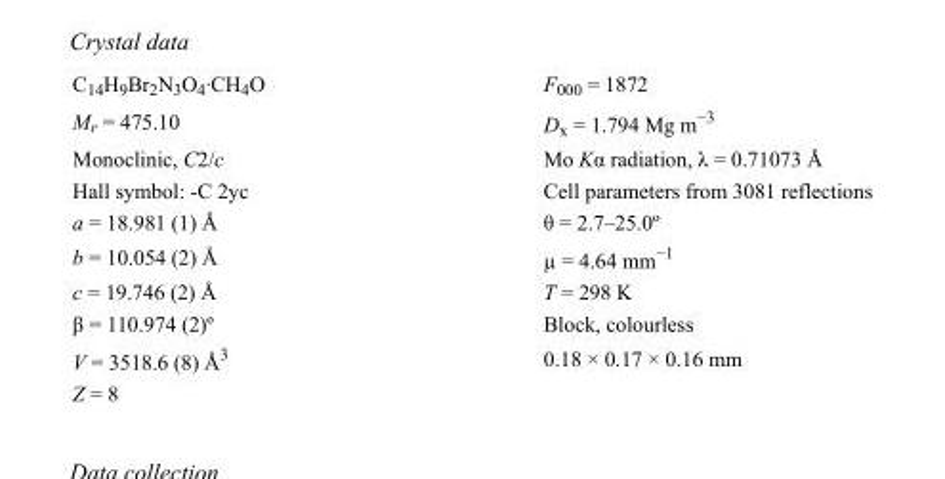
<table><tbody><tr><td>C<sub>14</sub>H<sub>9</sub>Br<sub>2</sub>N<sub>3</sub>O<sub>4</sub>·CH<sub>4</sub>O</td><td>F000 = 1872</td></tr><tr><td>M<sub>r</sub> = 475.10</td><td>D<sub>x</sub> = 1.794 Mg m<sup>−3</sup></td></tr><tr><td>Monoclinic, C2/c</td><td>Mo Kα radiation, λ = 0.71073 Å</td></tr><tr><td>Hall symbol: -C 2yc</td><td>Cell parameters from 3081 reflections</td></tr><tr><td>a = 18.981 (1) Å</td><td>θ = 2.7–25.0º</td></tr><tr><td>b = 10.054 (2) Å</td><td>µ = 4.64 mm<sup>−1</sup></td></tr><tr><td>c = 19.746 (2) Å</td><td>T = 298 K</td></tr><tr><td>β = 110.974 (2)º</td><td>Block, colourless</td></tr><tr><td>V = 3518.6 (8) Å<sup>3</sup></td><td>0.18 × 0.17 × 0.16 mm</td></tr><tr><td>Z = 8</td><td></td></tr></tbody></table>